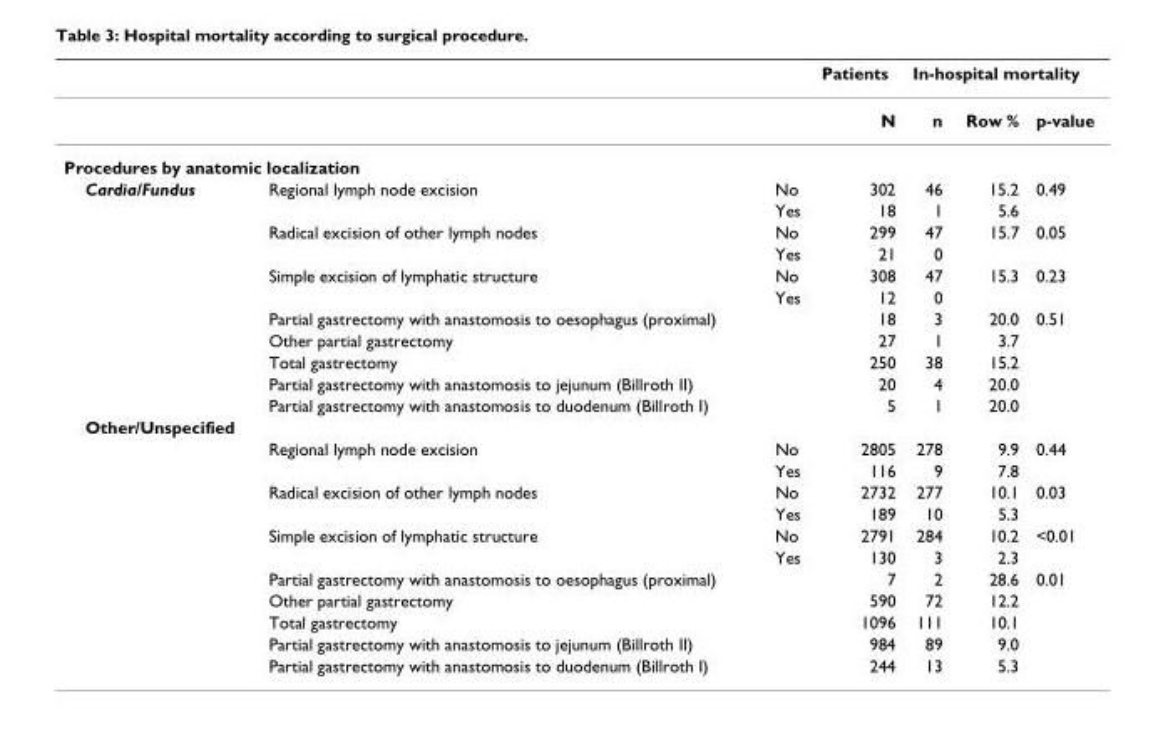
<table><thead><tr><td rowspan="2"></td><td rowspan="2"></td><td rowspan="2"></td><td rowspan="2">Patients N</td><td colspan="3">In-hospital mortality</td></tr><tr><td>n</td><td>Row %</td><td>p-value</td></tr></thead><tbody><tr><td colspan="7">Procedures by anatomic localization</td></tr><tr><td rowspan="11">Cardia/Fundus</td><td>Regional lymph node excision</td><td>No</td><td>302</td><td>46</td><td>15.2</td><td>0.49</td></tr><tr><td></td><td>Yes</td><td>18</td><td>1</td><td>5.6</td><td></td></tr><tr><td>Radical excision of other lymph nodes</td><td>No</td><td>299</td><td>47</td><td>15.7</td><td>0.05</td></tr><tr><td></td><td>Yes</td><td>21</td><td>0</td><td></td><td></td></tr><tr><td>Simple excision of lymphatic structure</td><td>No</td><td>308</td><td>47</td><td>15.3</td><td>0.23</td></tr><tr><td></td><td>Yes</td><td>12</td><td>0</td><td></td><td></td></tr><tr><td>Partial gastrectomy with anastomosis to oesophagus (proximal)</td><td></td><td>18</td><td>3</td><td>20.0</td><td>0.51</td></tr><tr><td>Other partial gastrectomy</td><td></td><td>27</td><td>1</td><td>3.7</td><td></td></tr><tr><td>Total gastrectomy</td><td></td><td>250</td><td>38</td><td>15.2</td><td></td></tr><tr><td>Partial gastrectomy with anastomosis to jejunum (Billroth II)</td><td></td><td>20</td><td>4</td><td>20.0</td><td></td></tr><tr><td>Partial gastrectomy with anastomosis to duodenum (Billroth I)</td><td></td><td>5</td><td>1</td><td>20.0</td><td></td></tr><tr><td colspan="7">Other/Unspecified</td></tr><tr><td></td><td>Regional lymph node excision</td><td>No</td><td>2805</td><td>278</td><td>9.9</td><td>0.44</td></tr><tr><td></td><td></td><td>Yes</td><td>116</td><td>9</td><td>7.8</td><td></td></tr><tr><td></td><td>Radical excision of other lymph nodes</td><td>No</td><td>2732</td><td>277</td><td>10.1</td><td>0.03</td></tr><tr><td></td><td></td><td>Yes</td><td>189</td><td>10</td><td>5.3</td><td></td></tr><tr><td></td><td>Simple excision of lymphatic structure</td><td>No</td><td>2791</td><td>284</td><td>10.2</td><td>&lt;0.01</td></tr><tr><td></td><td></td><td>Yes</td><td>130</td><td>3</td><td>2.3</td><td></td></tr><tr><td></td><td>Partial gastrectomy with anastomosis to oesophagus (proximal)</td><td></td><td>7</td><td>2</td><td>28.6</td><td>0.01</td></tr><tr><td></td><td>Other partial gastrectomy</td><td></td><td>590</td><td>72</td><td>12.2</td><td></td></tr><tr><td></td><td>Total gastrectomy</td><td></td><td>1096</td><td>111</td><td>10.1</td><td></td></tr><tr><td></td><td>Partial gastrectomy with anastomosis to jejunum (Billroth II)</td><td></td><td>984</td><td>89</td><td>9.0</td><td></td></tr><tr><td></td><td>Partial gastrectomy with anastomosis to duodenum (Billroth I)</td><td></td><td>244</td><td>13</td><td>5.3</td><td></td></tr></tbody></table>